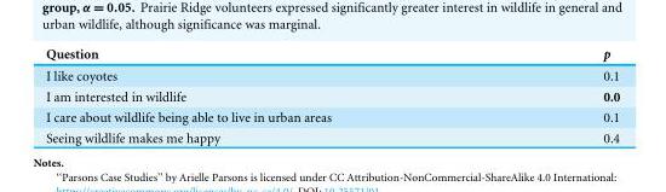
<table><thead><tr><td>Question</td><td>p</td></tr></thead><tbody><tr><td>I like coyotes</td><td>0.1</td></tr><tr><td>I am interested in wildlife</td><td>0.0</td></tr><tr><td>I care about wildlife being able to live in urban areas</td><td>0.1</td></tr><tr><td>Seeing wildlife makes me happy</td><td>0.4</td></tr></tbody></table>